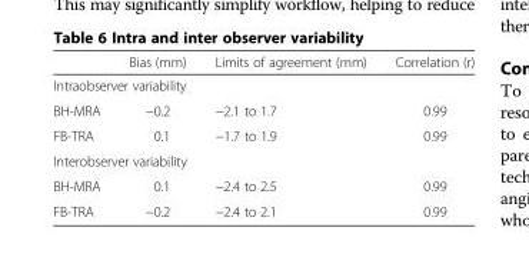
<table><thead><tr><td></td><td>Bias (mm)</td><td>Limits of agreement (mm)</td><td>Correlation (r)</td></tr></thead><tbody><tr><td colspan="4">Intraobserver variability</td></tr><tr><td>BH-MRA</td><td>−0.2</td><td>−2.1 to 1.7</td><td>0.99</td></tr><tr><td>FB-TRA</td><td>0.1</td><td>−1.7 to 1.9</td><td>0.99</td></tr><tr><td colspan="4">Interobserver variability</td></tr><tr><td>BH-MRA</td><td>0.1</td><td>−2.4 to 2.5</td><td>0.99</td></tr><tr><td>FB-TRA</td><td>−0.2</td><td>−2.4 to 2.1</td><td>0.99</td></tr></tbody></table>